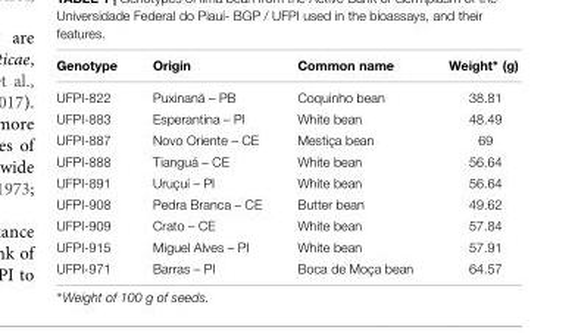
<table><thead><tr><td>Genotype</td><td>Origin</td><td>Common name</td><td>Weight∗ (g)</td></tr></thead><tbody><tr><td>UFPI-822</td><td>Puxinanã – PB</td><td>Coquinho bean</td><td>38.81</td></tr><tr><td>UFPI-883</td><td>Esperantina – PI</td><td>White bean</td><td>48.49</td></tr><tr><td>UFPI-887</td><td>Novo Oriente – CE</td><td>Mestiça bean</td><td>69</td></tr><tr><td>UFPI-888</td><td>Tianguá – CE</td><td>White bean</td><td>56.64</td></tr><tr><td>UFPI-891</td><td>Uruçuí – PI</td><td>White bean</td><td>56.64</td></tr><tr><td>UFPI-908</td><td>Pedra Branca – CE</td><td>Butter bean</td><td>49.62</td></tr><tr><td>UFPI-909</td><td>Crato – CE</td><td>White bean</td><td>57.84</td></tr><tr><td>UFPI-915</td><td>Miguel Alves – PI</td><td>White bean</td><td>57.91</td></tr><tr><td>UFPI-971</td><td>Barras – PI</td><td>Boca de Moça bean</td><td>64.57</td></tr></tbody></table>